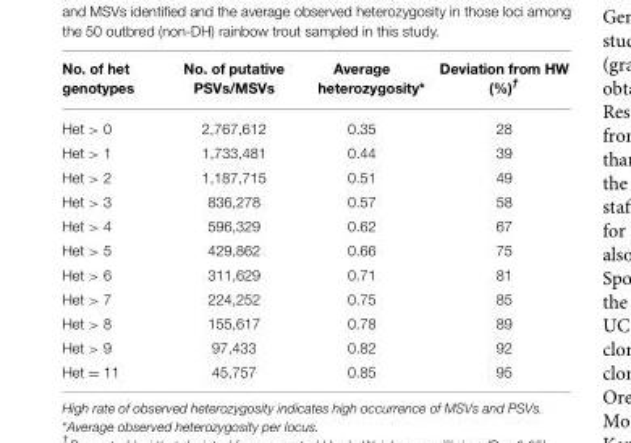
<table><thead><tr><td>No. of het genotypes</td><td>No. of putative PSVs/MSVs</td><td>Average heterozygosity*</td><td>Deviation from HW (%)<sup>†</sup></td></tr></thead><tbody><tr><td>Het &gt; 0</td><td>2,767,612</td><td>0.35</td><td>28</td></tr><tr><td>Het &gt; 1</td><td>1,733,481</td><td>0.44</td><td>39</td></tr><tr><td>Het &gt; 2</td><td>1,187,715</td><td>0.51</td><td>49</td></tr><tr><td>Het &gt; 3</td><td>836,278</td><td>0.57</td><td>58</td></tr><tr><td>Het &gt; 4</td><td>596,329</td><td>0.62</td><td>67</td></tr><tr><td>Het &gt; 5</td><td>429,862</td><td>0.66</td><td>75</td></tr><tr><td>Het &gt; 6</td><td>311,629</td><td>0.71</td><td>81</td></tr><tr><td>Het &gt; 7</td><td>224,252</td><td>0.75</td><td>85</td></tr><tr><td>Het &gt; 8</td><td>155,617</td><td>0.78</td><td>89</td></tr><tr><td>Het &gt; 9</td><td>97,433</td><td>0.82</td><td>92</td></tr><tr><td>Het = 11</td><td>45,757</td><td>0.85</td><td>95</td></tr></tbody></table>